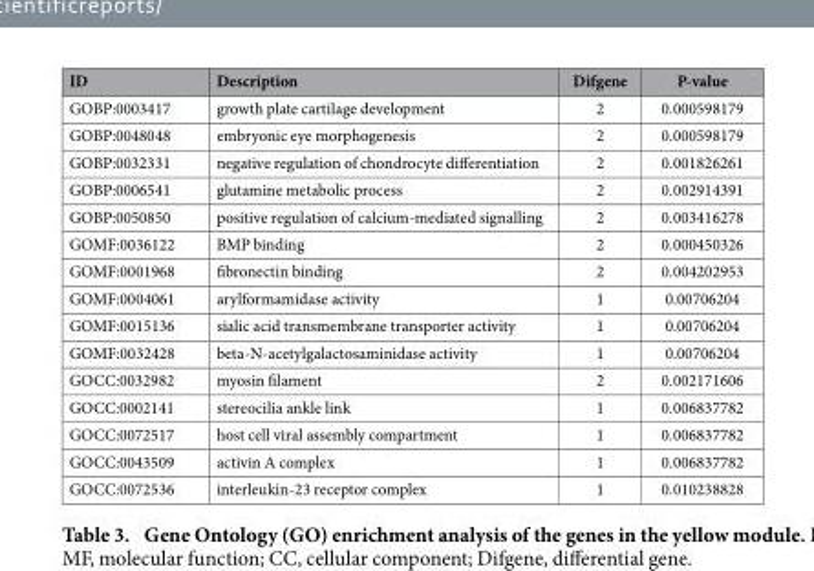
<table><thead><tr><td>ID</td><td>Description</td><td>Difgene</td><td>P-value</td></tr></thead><tbody><tr><td>GOBP:0003417</td><td>growth plate cartilage development</td><td>2</td><td>0.000598179</td></tr><tr><td>GOBP:0048048</td><td>embryonic eye morphogenesis</td><td>2</td><td>0.000598179</td></tr><tr><td>GOBP:0032331</td><td>negative regulation of chondrocyte differentiation</td><td>2</td><td>0.001826261</td></tr><tr><td>GOBP:0006541</td><td>glutamine metabolic process</td><td>2</td><td>0.002914391</td></tr><tr><td>GOBP:0050850</td><td>positive regulation of calcium-mediated signalling</td><td>2</td><td>0.003416278</td></tr><tr><td>GOMF:0036122</td><td>BMP binding</td><td>2</td><td>0.000450326</td></tr><tr><td>GOMF:0001968</td><td>fibronectin binding</td><td>2</td><td>0.004202953</td></tr><tr><td>GOMF:0004061</td><td>arylformamidase activity</td><td>1</td><td>0.00706204</td></tr><tr><td>GOMF:0015136</td><td>sialic acid transmembrane transporter activity</td><td>1</td><td>0.00706204</td></tr><tr><td>GOMF:0032428</td><td>beta-N-acetylgalactosaminidase activity</td><td>1</td><td>0.00706204</td></tr><tr><td>GOCC:0032982</td><td>myosin filament</td><td>2</td><td>0.002171606</td></tr><tr><td>GOCC:0002141</td><td>stereocilia ankle link</td><td>1</td><td>0.006837782</td></tr><tr><td>GOCC:0072517</td><td>host cell viral assembly compartment</td><td>1</td><td>0.006837782</td></tr><tr><td>GOCC:0043509</td><td>activin A complex</td><td>1</td><td>0.006837782</td></tr><tr><td>GOCC:0072536</td><td>interleukin-23 receptor complex</td><td>1</td><td>0.010238828</td></tr></tbody></table>